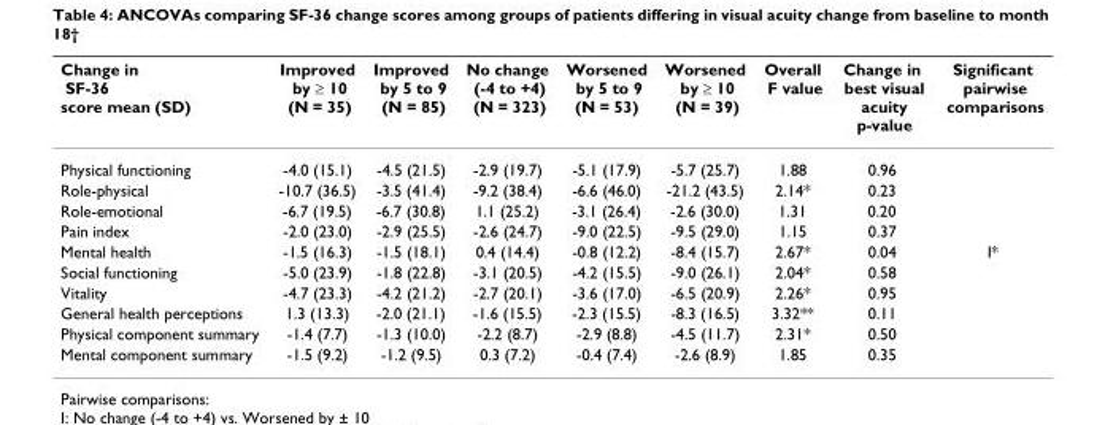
<table><thead><tr><td>Change in SF-36 score mean (SD)</td><td>Improved by ≥ 10 (N = 35)</td><td>Improved by 5 to 9 (N = 85)</td><td>No change (-4 to +4) (N = 323)</td><td>Worsened by 5 to 9 (N = 53)</td><td>Worsened by ≥ 10 (N = 39)</td><td>Overall F value</td><td>Change in best visual acuity p-value</td><td>Significant pairwise comparisons</td></tr></thead><tbody><tr><td>Physical functioning</td><td>-4.0 (15.1)</td><td>-4.5 (21.5)</td><td>-2.9 (19.7)</td><td>-5.1 (17.9)</td><td>-5.7 (25.7)</td><td>1.88</td><td>0.96</td><td></td></tr><tr><td>Role-physical</td><td>-10.7 (36.5)</td><td>-3.5 (41.4)</td><td>-9.2 (38.4)</td><td>-6.6 (46.0)</td><td>-21.2 (43.5)</td><td>2.14*</td><td>0.23</td><td></td></tr><tr><td>Role-emotional</td><td>-6.7 (19.5)</td><td>-6.7 (30.8)</td><td>1.1 (25.2)</td><td>-3.1 (26.4)</td><td>-2.6 (30.0)</td><td>1.31</td><td>0.20</td><td></td></tr><tr><td>Pain index</td><td>-2.0 (23.0)</td><td>-2.9 (25.5)</td><td>-2.6 (24.7)</td><td>-9.0 (22.5)</td><td>-9.5 (29.0)</td><td>1.15</td><td>0.37</td><td></td></tr><tr><td>Mental health</td><td>-1.5 (16.3)</td><td>-1.5 (18.1)</td><td>0.4 (14.4)</td><td>-0.8 (12.2)</td><td>-8.4 (15.7)</td><td>2.67*</td><td>0.04</td><td>I*</td></tr><tr><td>Social functioning</td><td>-5.0 (23.9)</td><td>-1.8 (22.8)</td><td>-3.1 (20.5)</td><td>-4.2 (15.5)</td><td>-9.0 (26.1)</td><td>2.04*</td><td>0.58</td><td></td></tr><tr><td>Vitality</td><td>-4.7 (23.3)</td><td>-4.2 (21.2)</td><td>-2.7 (20.1)</td><td>-3.6 (17.0)</td><td>-6.5 (20.9)</td><td>2.26*</td><td>0.95</td><td></td></tr><tr><td>General health perceptions</td><td>1.3 (13.3)</td><td>-2.0 (21.1)</td><td>-1.6 (15.5)</td><td>-2.3 (15.5)</td><td>-8.3 (16.5)</td><td>3.32**</td><td>0.11</td><td></td></tr><tr><td>Physical component summary</td><td>-1.4 (7.7)</td><td>-1.3 (10.0)</td><td>-2.2 (8.7)</td><td>-2.9 (8.8)</td><td>-4.5 (11.7)</td><td>2.31*</td><td>0.50</td><td></td></tr><tr><td>Mental component summary</td><td>-1.5 (9.2)</td><td>-1.2 (9.5)</td><td>0.3 (7.2)</td><td>-0.4 (7.4)</td><td>-2.6 (8.9)</td><td>1.85</td><td>0.35</td><td></td></tr></tbody></table>